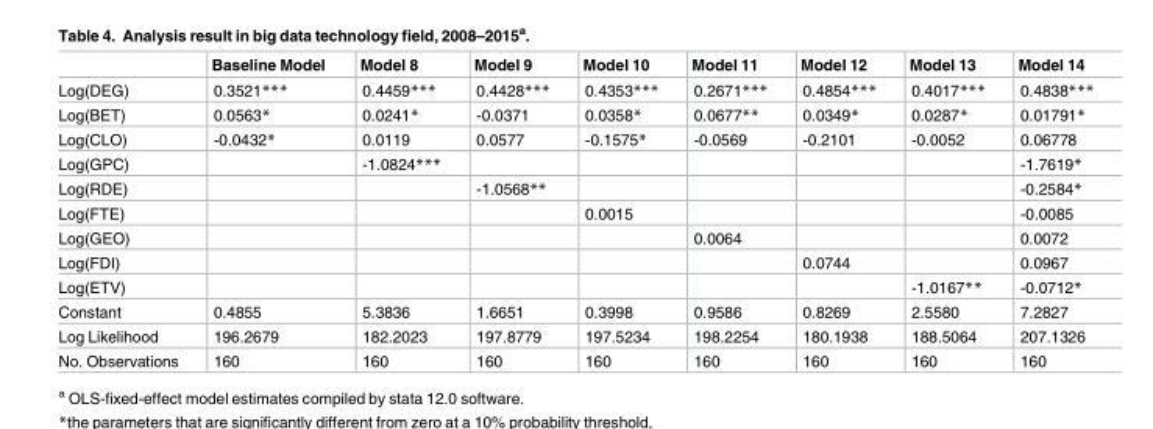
<table><thead><tr><td></td><td>Baseline Model</td><td>Model 8</td><td>Model 9</td><td>Model 10</td><td>Model 11</td><td>Model 12</td><td>Model 13</td><td>Model 14</td></tr></thead><tbody><tr><td>Log(DEG)</td><td>0.3521***</td><td>0.4459***</td><td>0.4428***</td><td>0.4353***</td><td>0.2671***</td><td>0.4854***</td><td>0.4017***</td><td>0.4838***</td></tr><tr><td>Log(BET)</td><td>0.0563*</td><td>0.0241*</td><td>-0.0371</td><td>0.0358*</td><td>0.0677**</td><td>0.0349*</td><td>0.0287*</td><td>0.01791*</td></tr><tr><td>Log(CLO)</td><td>-0.0432*</td><td>0.0119</td><td>0.0577</td><td>-0.1575*</td><td>-0.0569</td><td>-0.2101</td><td>-0.0052</td><td>0.06778</td></tr><tr><td>Log(GPC)</td><td></td><td>-1.0824***</td><td></td><td></td><td></td><td></td><td></td><td>-1.7619*</td></tr><tr><td>Log(RDE)</td><td></td><td></td><td>-1.0568**</td><td></td><td></td><td></td><td></td><td>-0.2584*</td></tr><tr><td>Log(FTE)</td><td></td><td></td><td></td><td>0.0015</td><td></td><td></td><td></td><td>-0.0085</td></tr><tr><td>Log(GEO)</td><td></td><td></td><td></td><td></td><td>0.0064</td><td></td><td></td><td>0.0072</td></tr><tr><td>Log(FDI)</td><td></td><td></td><td></td><td></td><td></td><td>0.0744</td><td></td><td>0.0967</td></tr><tr><td>Log(ETV)</td><td></td><td></td><td></td><td></td><td></td><td></td><td>-1.0167**</td><td>-0.0712*</td></tr><tr><td>Constant</td><td>0.4855</td><td>5.3836</td><td>1.6651</td><td>0.3998</td><td>0.9586</td><td>0.8269</td><td>2.5580</td><td>7.2827</td></tr><tr><td>Log Likelihood</td><td>196.2679</td><td>182.2023</td><td>197.8779</td><td>197.5234</td><td>198.2254</td><td>180.1938</td><td>188.5064</td><td>207.1326</td></tr><tr><td>No. Observations</td><td>160</td><td>160</td><td>160</td><td>160</td><td>160</td><td>160</td><td>160</td><td>160</td></tr></tbody></table>